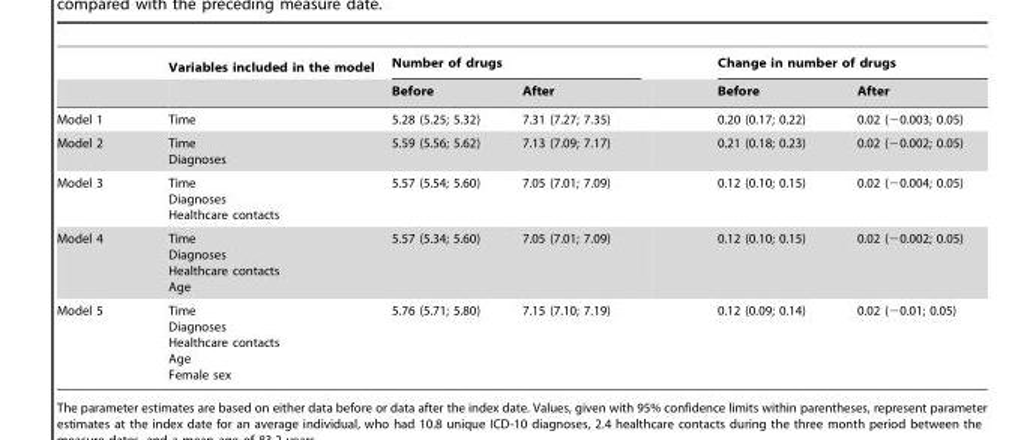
<table><thead><tr><td rowspan="2"></td><td rowspan="2">Variables included in the model</td><td colspan="2">Number of drugs</td><td colspan="2">Change in number of drugs</td></tr><tr><td>Before</td><td>After</td><td>Before</td><td>After</td></tr></thead><tbody><tr><td>Model 1</td><td>Time</td><td>5.28 (5.25; 5.32)</td><td>7.31 (7.27; 7.35)</td><td>0.20 (0.17; 0.22)</td><td>0.02 (−0.003; 0.05)</td></tr><tr><td>Model 2</td><td>Time Diagnoses</td><td>5.59 (5.56; 5.62)</td><td>7.13 (7.09; 7.17)</td><td>0.21 (0.18; 0.23)</td><td>0.02 (−0.002; 0.05)</td></tr><tr><td>Model 3</td><td>Time Diagnoses Healthcare contacts</td><td>5.57 (5.54; 5.60)</td><td>7.05 (7.01; 7.09)</td><td>0.12 (0.10; 0.15)</td><td>0.02 (−0.004; 0.05)</td></tr><tr><td>Model 4</td><td>Time Diagnoses Healthcare contacts Age</td><td>5.57 (5.34; 5.60)</td><td>7.05 (7.01; 7.09)</td><td>0.12 (0.10; 0.15)</td><td>0.02 (−0.002; 0.05)</td></tr><tr><td>Model 5</td><td>Time Diagnoses Healthcare contacts Age Female sex</td><td>5.76 (5.71; 5.80)</td><td>7.15 (7.10; 7.19)</td><td>0.12 (0.09; 0.14)</td><td>0.02 (−0.01; 0.05)</td></tr></tbody></table>